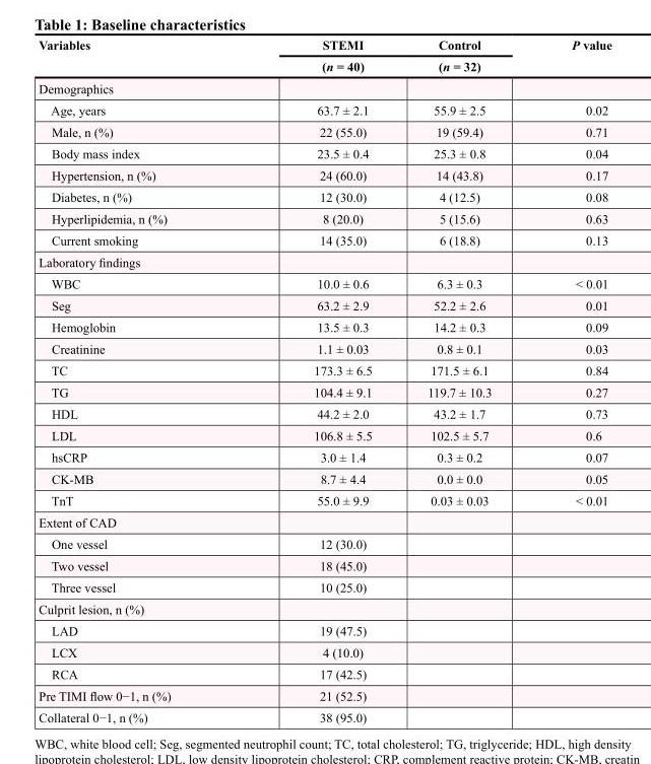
<table><thead><tr><td rowspan="2">Variables</td><td rowspan="2">STEMI (n = 40)</td><td rowspan="2">Control (n = 32)</td><td rowspan="2">P value</td></tr><tr></tr></thead><tbody><tr><td colspan="4">Demographics</td></tr><tr><td>Age, years</td><td>63.7 ± 2.1</td><td>55.9 ± 2.5</td><td>0.02</td></tr><tr><td>Male, n (%)</td><td>22 (55.0)</td><td>19 (59.4)</td><td>0.71</td></tr><tr><td>Body mass index</td><td>23.5 ± 0.4</td><td>25.3 ± 0.8</td><td>0.04</td></tr><tr><td>Hypertension, n (%)</td><td>24 (60.0)</td><td>14 (43.8)</td><td>0.17</td></tr><tr><td>Diabetes, n (%)</td><td>12 (30.0)</td><td>4 (12.5)</td><td>0.08</td></tr><tr><td>Hyperlipidemia, n (%)</td><td>8 (20.0)</td><td>5 (15.6)</td><td>0.63</td></tr><tr><td>Current smoking</td><td>14 (35.0)</td><td>6 (18.8)</td><td>0.13</td></tr><tr><td colspan="4">Laboratory findings</td></tr><tr><td>WBC</td><td>10.0 ± 0.6</td><td>6.3 ± 0.3</td><td>&lt; 0.01</td></tr><tr><td>Seg</td><td>63.2 ± 2.9</td><td>52.2 ± 2.6</td><td>0.01</td></tr><tr><td>Hemoglobin</td><td>13.5 ± 0.3</td><td>14.2 ± 0.3</td><td>0.09</td></tr><tr><td>Creatinine</td><td>1.1 ± 0.03</td><td>0.8 ± 0.1</td><td>0.03</td></tr><tr><td>TC</td><td>173.3 ± 6.5</td><td>171.5 ± 6.1</td><td>0.84</td></tr><tr><td>TG</td><td>104.4 ± 9.1</td><td>119.7 ± 10.3</td><td>0.27</td></tr><tr><td>HDL</td><td>44.2 ± 2.0</td><td>43.2 ± 1.7</td><td>0.73</td></tr><tr><td>LDL</td><td>106.8 ± 5.5</td><td>102.5 ± 5.7</td><td>0.6</td></tr><tr><td>hsCRP</td><td>3.0 ± 1.4</td><td>0.3 ± 0.2</td><td>0.07</td></tr><tr><td>CK-MB</td><td>8.7 ± 4.4</td><td>0.0 ± 0.0</td><td>0.05</td></tr><tr><td>TnT</td><td>55.0 ± 9.9</td><td>0.03 ± 0.03</td><td>&lt; 0.01</td></tr><tr><td colspan="4">Extent of CAD</td></tr><tr><td>One vessel</td><td>12 (30.0)</td><td></td><td></td></tr><tr><td>Two vessel</td><td>18 (45.0)</td><td></td><td></td></tr><tr><td>Three vessel</td><td>10 (25.0)</td><td></td><td></td></tr><tr><td colspan="4">Culprit lesion, n (%)</td></tr><tr><td>LAD</td><td>19 (47.5)</td><td></td><td></td></tr><tr><td>LCX</td><td>4 (10.0)</td><td></td><td></td></tr><tr><td>RCA</td><td>17 (42.5)</td><td></td><td></td></tr><tr><td>Pre TIMI flow 0−1, n (%)</td><td>21 (52.5)</td><td></td><td></td></tr><tr><td>Collateral 0−1, n (%)</td><td>38 (95.0)</td><td></td><td></td></tr></tbody></table>